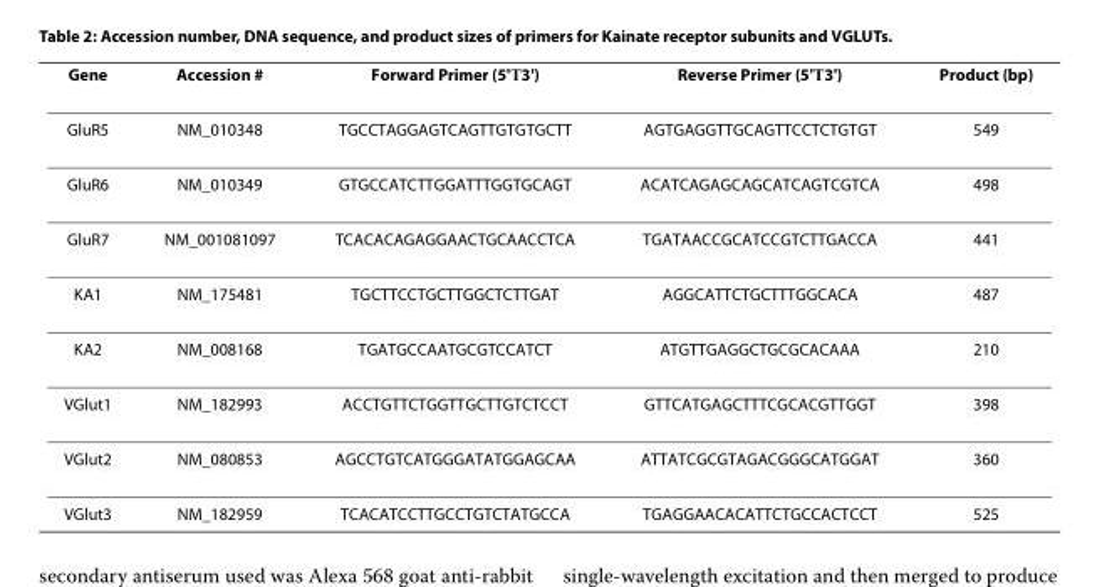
<table><thead><tr><td>Gene</td><td>Accession #</td><td>Forward Primer (5&#x27;→3&#x27;)</td><td>Reverse Primer (5&#x27;→3&#x27;)</td><td>Product (bp)</td></tr></thead><tbody><tr><td>GluR5</td><td>NM_010348</td><td>TGCCTAGGAGTCAGTTGTGTGCTT</td><td>AGTGAGGTTGCAGTTCCTCTGTGT</td><td>549</td></tr><tr><td>GluR6</td><td>NM_010349</td><td>GTGCCATCTTGGATTTGGTGCAGT</td><td>ACATCAGAGCAGCATCAGTCGTCA</td><td>498</td></tr><tr><td>GluR7</td><td>NM_001081097</td><td>TCACACAGAGGAACTGCAACCTCA</td><td>TGATAACCGCATCCGTCTTGACCA</td><td>441</td></tr><tr><td>KA1</td><td>NM_175481</td><td>TGCTTCCTGCTTGGCTCTTGAT</td><td>AGGCATTCTGCTTTGGCACA</td><td>487</td></tr><tr><td>KA2</td><td>NM_008168</td><td>TGATGCCAATGCGTCCATCT</td><td>ATGTTGAGGCTGCGCACAAA</td><td>210</td></tr><tr><td>VGlut1</td><td>NM_182993</td><td>ACCTGTTCTGGTTGCTTGTCTCCT</td><td>GTTCATGAGCTTTCGCACGTTGGT</td><td>398</td></tr><tr><td>VGlut2</td><td>NM_080853</td><td>AGCCTGTCATGGGATATGGAGCAA</td><td>ATTATCGCGTAGACGGGCATGGAT</td><td>360</td></tr><tr><td>VGlut3</td><td>NM_182959</td><td>TCACATCCTTGCCTGTCTATGCCA</td><td>TGAGGAACACATTCTGCCACTCCT</td><td>525</td></tr></tbody></table>